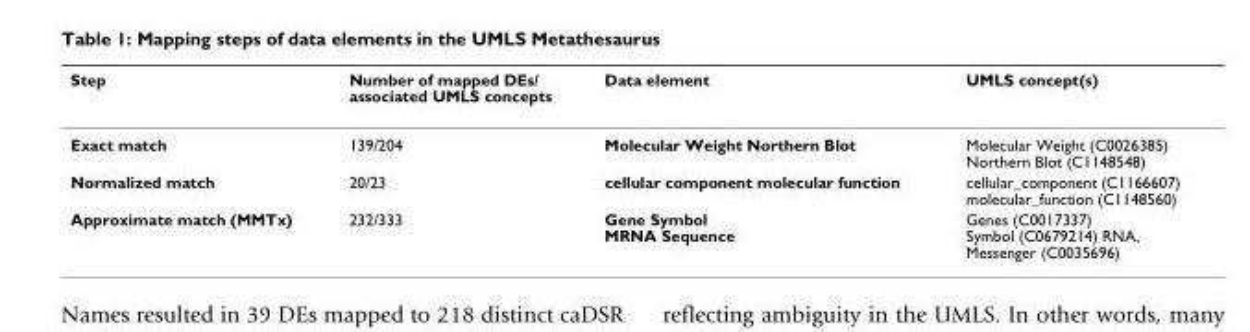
<table><thead><tr><td>Step</td><td>Number of mapped DEs/ associated UMLS concepts</td><td>Data element</td><td>UMLS concept(s)</td></tr></thead><tbody><tr><td>Exact match</td><td>139/204</td><td>Molecular Weight Northern Blot</td><td>Molecular Weight (C0026385) Northern Blot (C1148548)</td></tr><tr><td>Normalized match</td><td>20/23</td><td>cellular component molecular function</td><td>cellular_component (C1166607) molecular_function (C1148560)</td></tr><tr><td>Approximate match (MMTx)</td><td>232/333</td><td>Gene Symbol MRNA Sequence</td><td>Genes (C0017337) Symbol (C0679214) RNA, Messenger (C0035696)</td></tr></tbody></table>